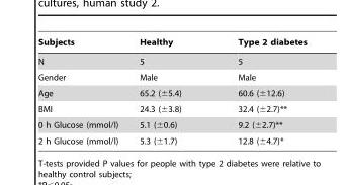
<table><thead><tr><td>Subjects</td><td>Healthy</td><td>Type 2 diabetes</td></tr></thead><tbody><tr><td>N</td><td>5</td><td>5</td></tr><tr><td>Gender</td><td>Male</td><td>Male</td></tr><tr><td>Age</td><td>65.2 (±5.4)</td><td>60.6 (±12.6)</td></tr><tr><td>BMI</td><td>24.3 (±3.8)</td><td>32.4 (±2.7)**</td></tr><tr><td>0 h Glucose (mmol/l)</td><td>5.1 (±0.6)</td><td>9.2 (±2.7)**</td></tr><tr><td>2 h Glucose (mmol/l)</td><td>5.3 (±1.7)</td><td>12.8 (±4.7)*</td></tr></tbody></table>